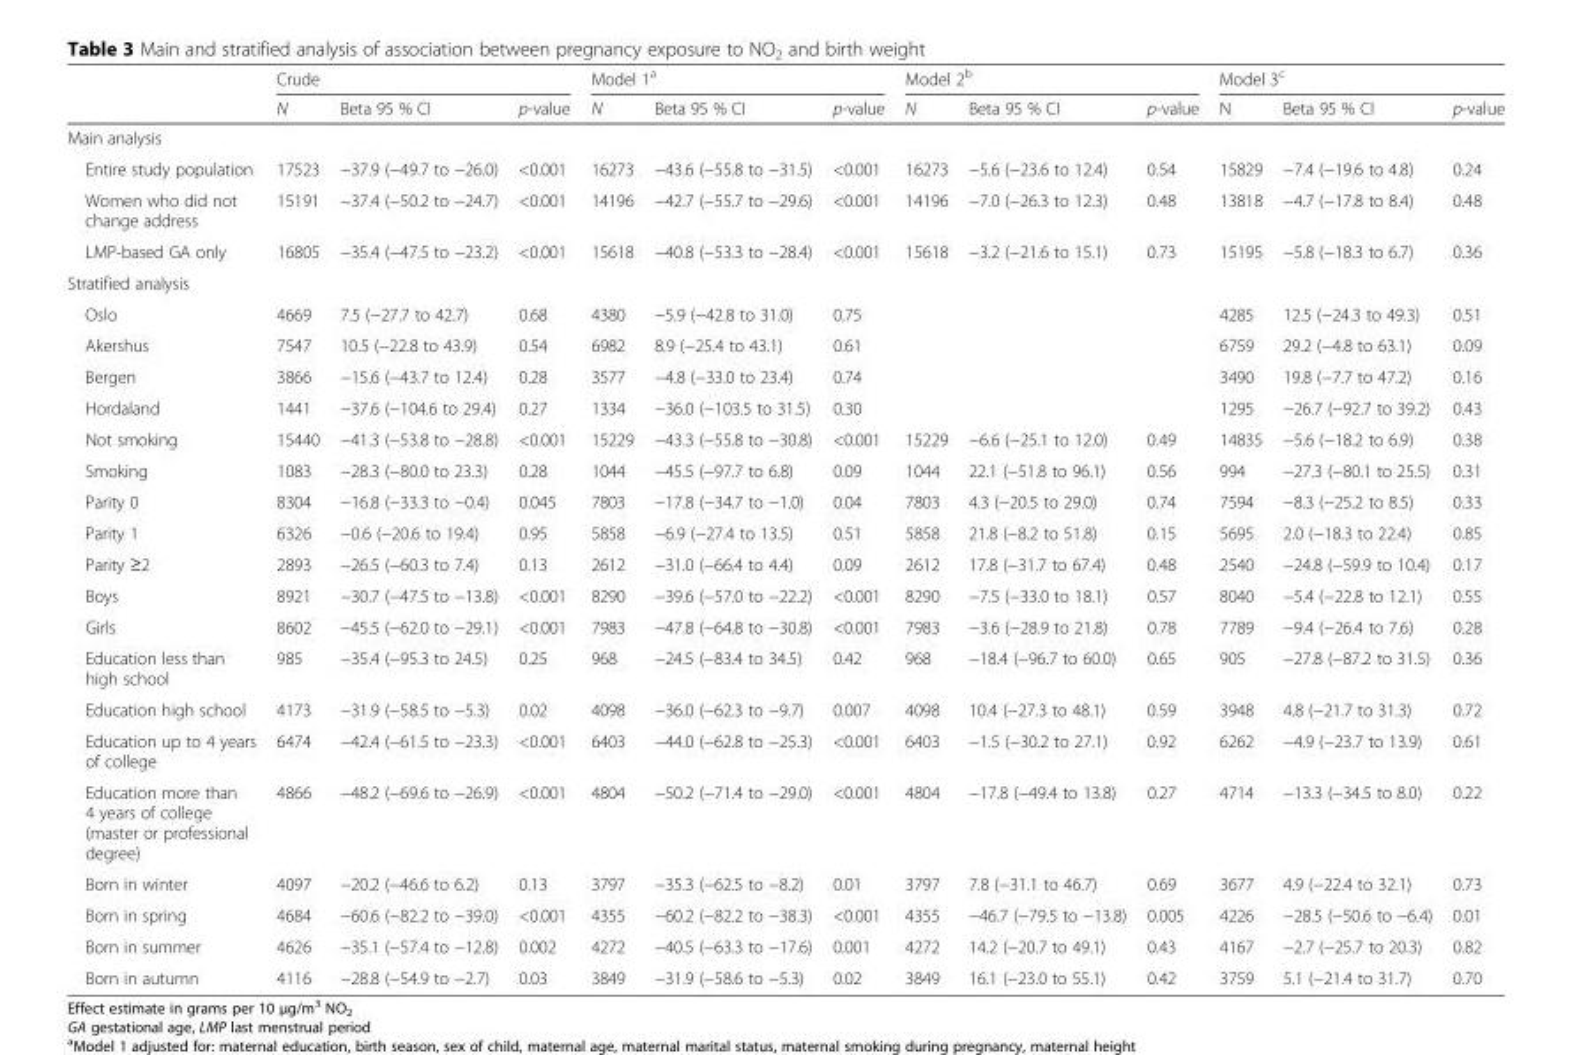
<table><thead><tr><td rowspan="2"></td><td colspan="3">Crude</td><td colspan="3">Model 1<sup>a</sup></td><td colspan="3">Model 2<sup>b</sup></td><td colspan="3">Model 3<sup>c</sup></td></tr><tr><td>N</td><td>Beta 95 % CI</td><td>p-value</td><td>N</td><td>Beta 95 % CI</td><td>p-value</td><td>N</td><td>Beta 95 % CI</td><td>p-value</td><td>N</td><td>Beta 95 % CI</td><td>p-value</td></tr></thead><tbody><tr><td colspan="13">Main analysis</td></tr><tr><td>Entire study population</td><td>17523</td><td>−37.9 (−49.7 to −26.0)</td><td>&lt;0.001</td><td>16273</td><td>−43.6 (−55.8 to −31.5)</td><td>&lt;0.001</td><td>16273</td><td>−5.6 (−23.6 to 12.4)</td><td>0.54</td><td>15829</td><td>−7.4 (−19.6 to 4.8)</td><td>0.24</td></tr><tr><td>Women who did not change address</td><td>15191</td><td>−37.4 (−50.2 to −24.7)</td><td>&lt;0.001</td><td>14196</td><td>−42.7 (−55.7 to −29.6)</td><td>&lt;0.001</td><td>14196</td><td>−7.0 (−26.3 to 12.3)</td><td>0.48</td><td>13818</td><td>−4.7 (−17.8 to 8.4)</td><td>0.48</td></tr><tr><td>LMP-based GA only</td><td>16805</td><td>−35.4 (−47.5 to −23.2)</td><td>&lt;0.001</td><td>15618</td><td>−40.8 (−53.3 to −28.4)</td><td>&lt;0.001</td><td>15618</td><td>−3.2 (−21.6 to 15.1)</td><td>0.73</td><td>15195</td><td>−5.8 (−18.3 to 6.7)</td><td>0.36</td></tr><tr><td colspan="13">Stratified analysis</td></tr><tr><td>Oslo</td><td>4669</td><td>7.5 (−27.7 to 42.7)</td><td>0.68</td><td>4380</td><td>−5.9 (−42.8 to 31.0)</td><td>0.75</td><td></td><td></td><td></td><td>4285</td><td>12.5 (−24.3 to 49.3)</td><td>0.51</td></tr><tr><td>Akershus</td><td>7547</td><td>10.5 (−22.8 to 43.9)</td><td>0.54</td><td>6982</td><td>8.9 (−25.4 to 43.1)</td><td>0.61</td><td></td><td></td><td></td><td>6759</td><td>29.2 (−4.8 to 63.1)</td><td>0.09</td></tr><tr><td>Bergen</td><td>3866</td><td>−15.6 (−43.7 to 12.4)</td><td>0.28</td><td>3577</td><td>−4.8 (−33.0 to 23.4)</td><td>0.74</td><td></td><td></td><td></td><td>3490</td><td>19.8 (−7.7 to 47.2)</td><td>0.16</td></tr><tr><td>Hordaland</td><td>1441</td><td>−37.6 (−104.6 to 29.4)</td><td>0.27</td><td>1334</td><td>−36.0 (−103.5 to 31.5)</td><td>0.30</td><td></td><td></td><td></td><td>1295</td><td>−26.7 (−92.7 to 39.2)</td><td>0.43</td></tr><tr><td>Not smoking</td><td>15440</td><td>−41.3 (−53.8 to −28.8)</td><td>&lt;0.001</td><td>15229</td><td>−43.3 (−55.8 to −30.8)</td><td>&lt;0.001</td><td>15229</td><td>−6.6 (−25.1 to 12.0)</td><td>0.49</td><td>14835</td><td>−5.6 (−18.2 to 6.9)</td><td>0.38</td></tr><tr><td>Smoking</td><td>1083</td><td>−28.3 (−80.0 to 23.3)</td><td>0.28</td><td>1044</td><td>−45.5 (−97.7 to 6.8)</td><td>0.09</td><td>1044</td><td>22.1 (−51.8 to 96.1)</td><td>0.56</td><td>994</td><td>−27.3 (−80.1 to 25.5)</td><td>0.31</td></tr><tr><td>Parity 0</td><td>8304</td><td>−16.8 (−33.3 to −0.4)</td><td>0.045</td><td>7803</td><td>−17.8 (−34.7 to −1.0)</td><td>0.04</td><td>7803</td><td>4.3 (−20.5 to 29.0)</td><td>0.74</td><td>7594</td><td>−8.3 (−25.2 to 8.5)</td><td>0.33</td></tr><tr><td>Parity 1</td><td>6326</td><td>−0.6 (−20.6 to 19.4)</td><td>0.95</td><td>5858</td><td>−6.9 (−27.4 to 13.5)</td><td>0.51</td><td>5858</td><td>21.8 (−8.2 to 51.8)</td><td>0.15</td><td>5695</td><td>2.0 (−18.3 to 22.4)</td><td>0.85</td></tr><tr><td>Parity ≥2</td><td>2893</td><td>−26.5 (−60.3 to 7.4)</td><td>0.13</td><td>2612</td><td>−31.0 (−66.4 to 4.4)</td><td>0.09</td><td>2612</td><td>17.8 (−31.7 to 67.4)</td><td>0.48</td><td>2540</td><td>−24.8 (−59.9 to 10.4)</td><td>0.17</td></tr><tr><td>Boys</td><td>8921</td><td>−30.7 (−47.5 to −13.8)</td><td>&lt;0.001</td><td>8290</td><td>−39.6 (−57.0 to −22.2)</td><td>&lt;0.001</td><td>8290</td><td>−7.5 (−33.0 to 18.1)</td><td>0.57</td><td>8040</td><td>−5.4 (−22.8 to 12.1)</td><td>0.55</td></tr><tr><td>Girls</td><td>8602</td><td>−45.5 (−62.0 to −29.1)</td><td>&lt;0.001</td><td>7983</td><td>−47.8 (−64.8 to −30.8)</td><td>&lt;0.001</td><td>7983</td><td>−3.6 (−28.9 to 21.8)</td><td>0.78</td><td>7789</td><td>−9.4 (−26.4 to 7.6)</td><td>0.28</td></tr><tr><td>Education less than high school</td><td>985</td><td>−35.4 (−95.3 to 24.5)</td><td>0.25</td><td>968</td><td>−24.5 (−83.4 to 34.5)</td><td>0.42</td><td>968</td><td>−18.4 (−96.7 to 60.0)</td><td>0.65</td><td>905</td><td>−27.8 (−87.2 to 31.5)</td><td>0.36</td></tr><tr><td>Education high school</td><td>4173</td><td>−31.9 (−58.5 to −5.3)</td><td>0.02</td><td>4098</td><td>−36.0 (−62.3 to −9.7)</td><td>0.007</td><td>4098</td><td>10.4 (−27.3 to 48.1)</td><td>0.59</td><td>3948</td><td>4.8 (−21.7 to 31.3)</td><td>0.72</td></tr><tr><td>Education up to 4 years of college</td><td>6474</td><td>−42.4 (−61.5 to −23.3)</td><td>&lt;0.001</td><td>6403</td><td>−44.0 (−62.8 to −25.3)</td><td>&lt;0.001</td><td>6403</td><td>−1.5 (−30.2 to 27.1)</td><td>0.92</td><td>6262</td><td>−4.9 (−23.7 to 13.9)</td><td>0.61</td></tr><tr><td>Education more than 4 years of college (master or professional degree)</td><td>4866</td><td>−48.2 (−69.6 to −26.9)</td><td>&lt;0.001</td><td>4804</td><td>−50.2 (−71.4 to −29.0)</td><td>&lt;0.001</td><td>4804</td><td>−17.8 (−49.4 to 13.8)</td><td>0.27</td><td>4714</td><td>−13.3 (−34.5 to 8.0)</td><td>0.22</td></tr><tr><td>Born in winter</td><td>4097</td><td>−20.2 (−46.6 to 6.2)</td><td>0.13</td><td>3797</td><td>−35.3 (−62.5 to −8.2)</td><td>0.01</td><td>3797</td><td>7.8 (−31.1 to 46.7)</td><td>0.69</td><td>3677</td><td>4.9 (−22.4 to 32.1)</td><td>0.73</td></tr><tr><td>Born in spring</td><td>4684</td><td>−60.6 (−82.2 to −39.0)</td><td>&lt;0.001</td><td>4355</td><td>−60.2 (−82.2 to −38.3)</td><td>&lt;0.001</td><td>4355</td><td>−46.7 (−79.5 to −13.8)</td><td>0.005</td><td>4226</td><td>−28.5 (−50.6 to −6.4)</td><td>0.01</td></tr><tr><td>Born in summer</td><td>4626</td><td>−35.1 (−57.4 to −12.8)</td><td>0.002</td><td>4272</td><td>−40.5 (−63.3 to −17.6)</td><td>0.001</td><td>4272</td><td>14.2 (−20.7 to 49.1)</td><td>0.43</td><td>4167</td><td>−2.7 (−25.7 to 20.3)</td><td>0.82</td></tr><tr><td>Born in autumn</td><td>4116</td><td>−28.8 (−54.9 to −2.7)</td><td>0.03</td><td>3849</td><td>−31.9 (−58.6 to −5.3)</td><td>0.02</td><td>3849</td><td>16.1 (−23.0 to 55.1)</td><td>0.42</td><td>3759</td><td>5.1 (−21.4 to 31.7)</td><td>0.70</td></tr></tbody></table>